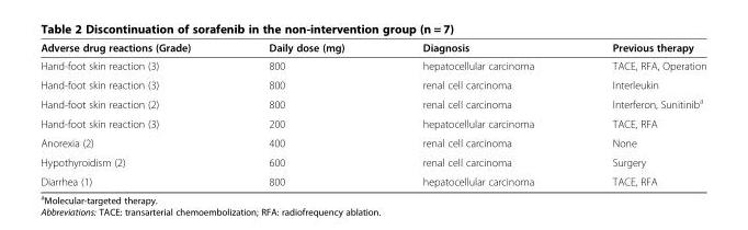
<table><thead><tr><td>Adverse drug reactions (Grade)</td><td>Daily dose (mg)</td><td>Diagnosis</td><td>Previous therapy</td></tr></thead><tbody><tr><td>Hand-foot skin reaction (3)</td><td>800</td><td>hepatocellular carcinoma</td><td>TACE, RFA, Operation</td></tr><tr><td>Hand-foot skin reaction (3)</td><td>800</td><td>renal cell carcinoma</td><td>Interleukin</td></tr><tr><td>Hand-foot skin reaction (2)</td><td>800</td><td>renal cell carcinoma</td><td>Interferon, Sunitinib<sup>a</sup></td></tr><tr><td>Hand-foot skin reaction (3)</td><td>200</td><td>hepatocellular carcinoma</td><td>TACE, RFA</td></tr><tr><td>Anorexia (2)</td><td>400</td><td>renal cell carcinoma</td><td>None</td></tr><tr><td>Hypothyroidism (2)</td><td>600</td><td>renal cell carcinoma</td><td>Surgery</td></tr><tr><td>Diarrhea (1)</td><td>800</td><td>hepatocellular carcinoma</td><td>TACE, RFA</td></tr></tbody></table>